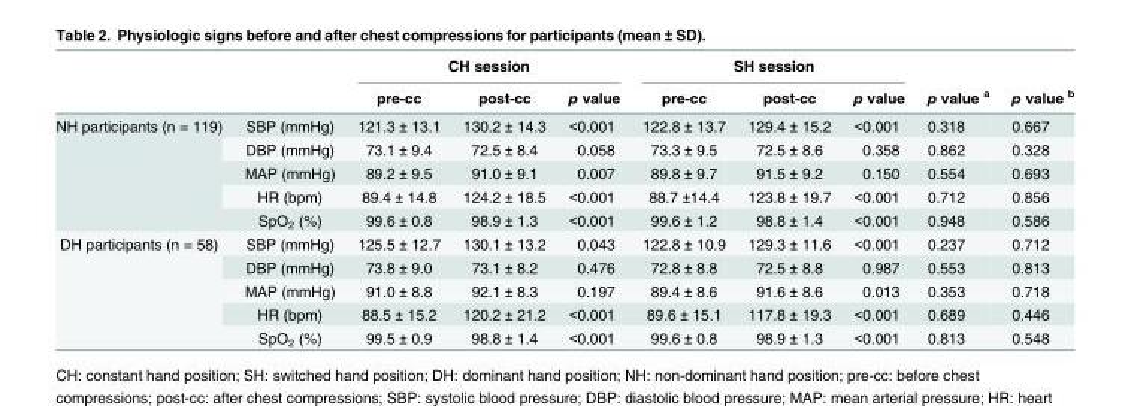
<table><thead><tr><td rowspan="2"></td><td rowspan="2"></td><td colspan="3">CH session</td><td colspan="3">SH session</td><td rowspan="2">p value <sup>a</sup></td><td rowspan="2">p value <sup>b</sup></td></tr><tr><td>pre-cc</td><td>post-cc</td><td>p value</td><td>pre-cc</td><td>post-cc</td><td>p value</td></tr></thead><tbody><tr><td rowspan="5">NH participants (n = 119)</td><td>SBP (mmHg)</td><td>121.3 ± 13.1</td><td>130.2 ± 14.3</td><td>&lt;0.001</td><td>122.8 ± 13.7</td><td>129.4 ± 15.2</td><td>&lt;0.001</td><td>0.318</td><td>0.667</td></tr><tr><td>DBP (mmHg)</td><td>73.1 ± 9.4</td><td>72.5 ± 8.4</td><td>0.058</td><td>73.3 ± 9.5</td><td>72.5 ± 8.6</td><td>0.358</td><td>0.862</td><td>0.328</td></tr><tr><td>MAP (mmHg)</td><td>89.2 ± 9.5</td><td>91.0 ± 9.1</td><td>0.007</td><td>89.8 ± 9.7</td><td>91.5 ± 9.2</td><td>0.150</td><td>0.554</td><td>0.693</td></tr><tr><td>HR (bpm)</td><td>89.4 ± 14.8</td><td>124.2 ± 18.5</td><td>&lt;0.001</td><td>88.7 ±14.4</td><td>123.8 ± 19.7</td><td>&lt;0.001</td><td>0.712</td><td>0.856</td></tr><tr><td>SpO<sub>2</sub> (%)</td><td>99.6 ± 0.8</td><td>98.9 ± 1.3</td><td>&lt;0.001</td><td>99.6 ± 1.2</td><td>98.8 ± 1.4</td><td>&lt;0.001</td><td>0.948</td><td>0.586</td></tr><tr><td rowspan="5">DH participants (n = 58)</td><td>SBP (mmHg)</td><td>125.5 ± 12.7</td><td>130.1 ± 13.2</td><td>0.043</td><td>122.8 ± 10.9</td><td>129.3 ± 11.6</td><td>&lt;0.001</td><td>0.237</td><td>0.712</td></tr><tr><td>DBP (mmHg)</td><td>73.8 ± 9.0</td><td>73.1 ± 8.2</td><td>0.476</td><td>72.8 ± 8.8</td><td>72.5 ± 8.8</td><td>0.987</td><td>0.553</td><td>0.813</td></tr><tr><td>MAP (mmHg)</td><td>91.0 ± 8.8</td><td>92.1 ± 8.3</td><td>0.197</td><td>89.4 ± 8.6</td><td>91.6 ± 8.6</td><td>0.013</td><td>0.353</td><td>0.718</td></tr><tr><td>HR (bpm)</td><td>88.5 ± 15.2</td><td>120.2 ± 21.2</td><td>&lt;0.001</td><td>89.6 ± 15.1</td><td>117.8 ± 19.3</td><td>&lt;0.001</td><td>0.689</td><td>0.446</td></tr><tr><td>SpO<sub>2</sub> (%)</td><td>99.5 ± 0.9</td><td>98.8 ± 1.4</td><td>&lt;0.001</td><td>99.6 ± 0.8</td><td>98.9 ± 1.3</td><td>&lt;0.001</td><td>0.813</td><td>0.548</td></tr></tbody></table>